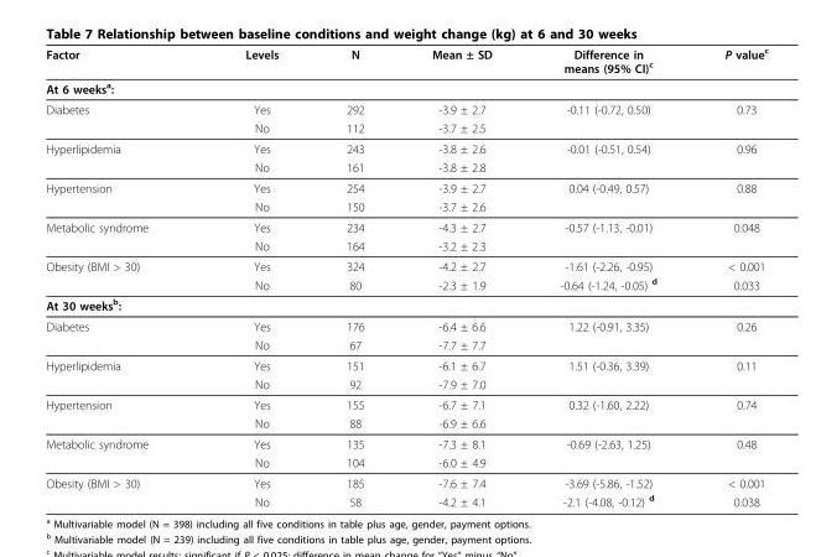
<table><thead><tr><td>Factor</td><td>Levels</td><td>N</td><td>Mean ± SD</td><td>Difference in means (95% CI)<sup>c</sup></td><td>P value<sup>c</sup></td></tr></thead><tbody><tr><td colspan="6">At 6 weeks<sup>a</sup>:</td></tr><tr><td rowspan="2">Diabetes</td><td>Yes</td><td>292</td><td>-3.9 ± 2.7</td><td>-0.11 (-0.72, 0.50)</td><td>0.73</td></tr><tr><td>No</td><td>112</td><td>-3.7 ± 2.5</td><td></td><td></td></tr><tr><td rowspan="2">Hyperlipidemia</td><td>Yes</td><td>243</td><td>-3.8 ± 2.6</td><td>-0.01 (-0.51, 0.54)</td><td>0.96</td></tr><tr><td>No</td><td>161</td><td>-3.8 ± 2.8</td><td></td><td></td></tr><tr><td rowspan="2">Hypertension</td><td>Yes</td><td>254</td><td>-3.9 ± 2.7</td><td>0.04 (-0.49, 0.57)</td><td>0.88</td></tr><tr><td>No</td><td>150</td><td>-3.7 ± 2.6</td><td></td><td></td></tr><tr><td rowspan="2">Metabolic syndrome</td><td>Yes</td><td>234</td><td>-4.3 ± 2.7</td><td>-0.57 (-1.13, -0.01)</td><td>0.048</td></tr><tr><td>No</td><td>164</td><td>-3.2 ± 2.3</td><td></td><td></td></tr><tr><td rowspan="2">Obesity (BMI &gt; 30)</td><td>Yes</td><td>324</td><td>-4.2 ± 2.7</td><td>-1.61 (-2.26, -0.95)</td><td>&lt; 0.001</td></tr><tr><td>No</td><td>80</td><td>-2.3 ± 1.9</td><td>-0.64 (-1.24, -0.05) <sup>d</sup></td><td>0.033</td></tr><tr><td colspan="6">At 30 weeks<sup>b</sup>:</td></tr><tr><td rowspan="2">Diabetes</td><td>Yes</td><td>176</td><td>-6.4 ± 6.6</td><td>1.22 (-0.91, 3.35)</td><td>0.26</td></tr><tr><td>No</td><td>67</td><td>-7.7 ± 7.7</td><td></td><td></td></tr><tr><td rowspan="2">Hyperlipidemia</td><td>Yes</td><td>151</td><td>-6.1 ± 6.7</td><td>1.51 (-0.36, 3.39)</td><td>0.11</td></tr><tr><td>No</td><td>92</td><td>-7.9 ± 7.0</td><td></td><td></td></tr><tr><td rowspan="2">Hypertension</td><td>Yes</td><td>155</td><td>-6.7 ± 7.1</td><td>0.32 (-1.60, 2.22)</td><td>0.74</td></tr><tr><td>No</td><td>88</td><td>-6.9 ± 6.6</td><td></td><td></td></tr><tr><td rowspan="2">Metabolic syndrome</td><td>Yes</td><td>135</td><td>-7.3 ± 8.1</td><td>-0.69 (-2.63, 1.25)</td><td>0.48</td></tr><tr><td>No</td><td>104</td><td>-6.0 ± 4.9</td><td></td><td></td></tr><tr><td rowspan="2">Obesity (BMI &gt; 30)</td><td>Yes</td><td>185</td><td>-7.6 ± 7.4</td><td>-3.69 (-5.86, -1.52)</td><td>&lt; 0.001</td></tr><tr><td>No</td><td>58</td><td>-4.2 ± 4.1</td><td>-2.1 (-4.08, -0.12) <sup>d</sup></td><td>0.038</td></tr></tbody></table>